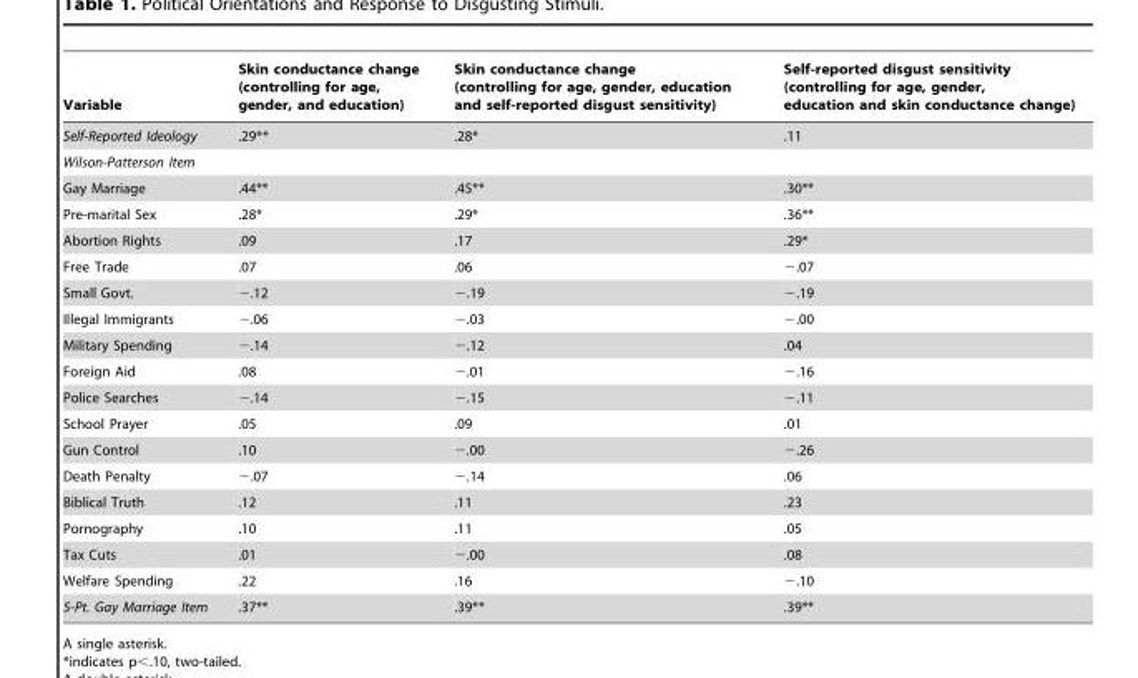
<table><thead><tr><td>Variable</td><td>Skin conductance change (controlling for age, gender, and education)</td><td>Skin conductance change (controlling for age, gender, education and self-reported disgust sensitivity)</td><td>Self-reported disgust sensitivity (controlling for age, gender, education and skin conductance change)</td></tr></thead><tbody><tr><td>Self-Reported Ideology</td><td>.29**</td><td>.28*</td><td>.11</td></tr><tr><td colspan="4">Wilson-Patterson Item</td></tr><tr><td>Gay Marriage</td><td>.44**</td><td>.45**</td><td>.30**</td></tr><tr><td>Pre-marital Sex</td><td>.28*</td><td>.29*</td><td>.36**</td></tr><tr><td>Abortion Rights</td><td>.09</td><td>.17</td><td>.29*</td></tr><tr><td>Free Trade</td><td>.07</td><td>.06</td><td>−.07</td></tr><tr><td>Small Govt.</td><td>−.12</td><td>−.19</td><td>−.19</td></tr><tr><td>Illegal Immigrants</td><td>−.06</td><td>−.03</td><td>−.00</td></tr><tr><td>Military Spending</td><td>−.14</td><td>−.12</td><td>.04</td></tr><tr><td>Foreign Aid</td><td>.08</td><td>−.01</td><td>−.16</td></tr><tr><td>Police Searches</td><td>−.14</td><td>−.15</td><td>−.11</td></tr><tr><td>School Prayer</td><td>.05</td><td>.09</td><td>.01</td></tr><tr><td>Gun Control</td><td>.10</td><td>−.00</td><td>−.26</td></tr><tr><td>Death Penalty</td><td>−.07</td><td>−.14</td><td>.06</td></tr><tr><td>Biblical Truth</td><td>.12</td><td>.11</td><td>.23</td></tr><tr><td>Pornography</td><td>.10</td><td>.11</td><td>.05</td></tr><tr><td>Tax Cuts</td><td>.01</td><td>−.00</td><td>.08</td></tr><tr><td>Welfare Spending</td><td>.22</td><td>.16</td><td>−.10</td></tr><tr><td>5-Pt. Gay Marriage Item</td><td>.37**</td><td>.39**</td><td>.39**</td></tr></tbody></table>